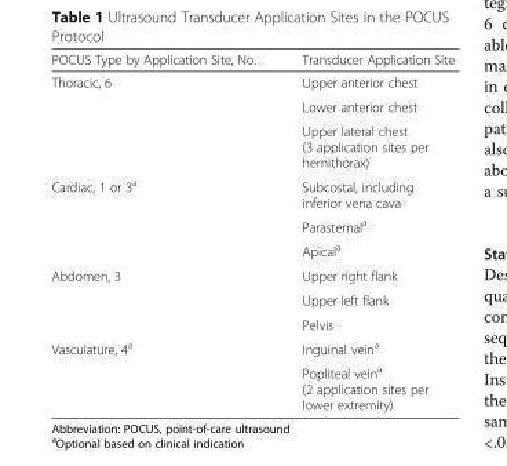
<table><thead><tr><td>POCUS Type by Application Site, No.</td><td>Transducer Application Site</td></tr></thead><tbody><tr><td rowspan="3">Thoracic, 6</td><td>Upper anterior chest</td></tr><tr><td>Lower anterior chest</td></tr><tr><td>Upper lateral chest (3 application sites per hemithorax)</td></tr><tr><td rowspan="3">Cardiac, 1 or 3<sup>a</sup></td><td>Subcostal, including inferior vena cava</td></tr><tr><td>Parasternal<sup>a</sup></td></tr><tr><td>Apical<sup>a</sup></td></tr><tr><td rowspan="3">Abdomen, 3</td><td>Upper right flank</td></tr><tr><td>Upper left flank</td></tr><tr><td>Pelvis</td></tr><tr><td rowspan="2">Vasculature, 4<sup>a</sup></td><td>Inguinal vein<sup>a</sup></td></tr><tr><td>Popliteal vein<sup>a</sup> (2 application sites per lower extremity)</td></tr></tbody></table>